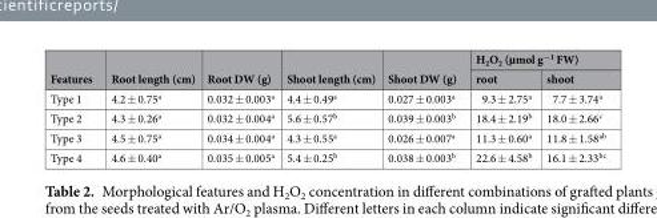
<table><thead><tr><td rowspan="2">Features</td><td rowspan="2">Root length (cm)</td><td rowspan="2">Root DW (g)</td><td rowspan="2">Shoot length (cm)</td><td rowspan="2">Shoot DW (g)</td><td colspan="2">H<sub>2</sub>O<sub>2</sub> (µmol g<sup>−1</sup> FW)</td></tr><tr><td>root</td><td>shoot</td></tr></thead><tbody><tr><td>Type 1</td><td>4.2 ± 0.75<sup>a</sup></td><td>0.032 ± 0.003<sup>a</sup></td><td>4.4 ± 0.49<sup>a</sup></td><td>0.027 ± 0.003<sup>a</sup></td><td>9.3 ± 2.75<sup>a</sup></td><td>7.7 ± 3.74<sup>a</sup></td></tr><tr><td>Type 2</td><td>4.3 ± 0.26<sup>a</sup></td><td>0.032 ± 0.004<sup>a</sup></td><td>5.6 ± 0.57<sup>b</sup></td><td>0.039 ± 0.003<sup>b</sup></td><td>18.4 ± 2.19<sup>b</sup></td><td>18.0 ± 2.66<sup>c</sup></td></tr><tr><td>Type 3</td><td>4.5 ± 0.75<sup>a</sup></td><td>0.034 ± 0.004<sup>a</sup></td><td>4.3 ± 0.55<sup>a</sup></td><td>0.026 ± 0.007<sup>a</sup></td><td>11.3 ± 0.60<sup>a</sup></td><td>11.8 ± 1.58<sup>ab</sup></td></tr><tr><td>Type 4</td><td>4.6 ± 0.40<sup>a</sup></td><td>0.035 ± 0.005<sup>a</sup></td><td>5.4 ± 0.25<sup>b</sup></td><td>0.038 ± 0.003<sup>b</sup></td><td>22.6 ± 4.58<sup>b</sup></td><td>16.1 ± 2.33<sup>bc</sup></td></tr></tbody></table>